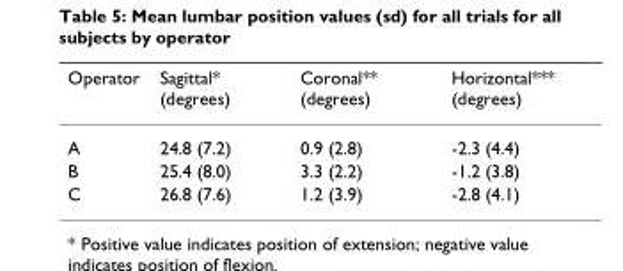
<table><thead><tr><td>Operator</td><td>Sagittal* (degrees)</td><td>Coronal** (degrees)</td><td>Horizontal*** (degrees)</td></tr></thead><tbody><tr><td>A</td><td>24.8 (7.2)</td><td>0.9 (2.8)</td><td>-2.3 (4.4)</td></tr><tr><td>B</td><td>25.4 (8.0)</td><td>3.3 (2.2)</td><td>-1.2 (3.8)</td></tr><tr><td>C</td><td>26.8 (7.6)</td><td>1.2 (3.9)</td><td>-2.8 (4.1)</td></tr></tbody></table>